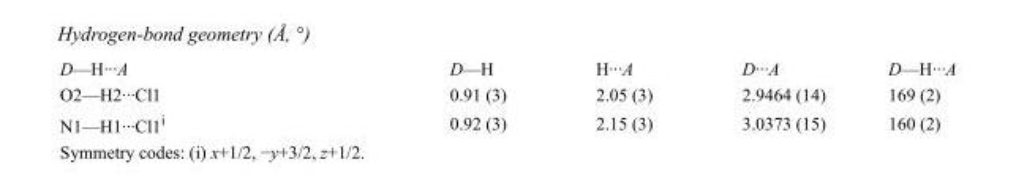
<table><tbody><tr><td>D—H···A</td><td>D—H</td><td>H···A</td><td>D···A</td><td>D—H···A</td></tr><tr><td>O2—H2···Cl1</td><td>0.91 (3)</td><td>2.05 (3)</td><td>2.9464 (14)</td><td>169 (2)</td></tr><tr><td>N1—H1···Cl1<sup>i</sup></td><td>0.92 (3)</td><td>2.15 (3)</td><td>3.0373 (15)</td><td>160 (2)</td></tr></tbody></table>